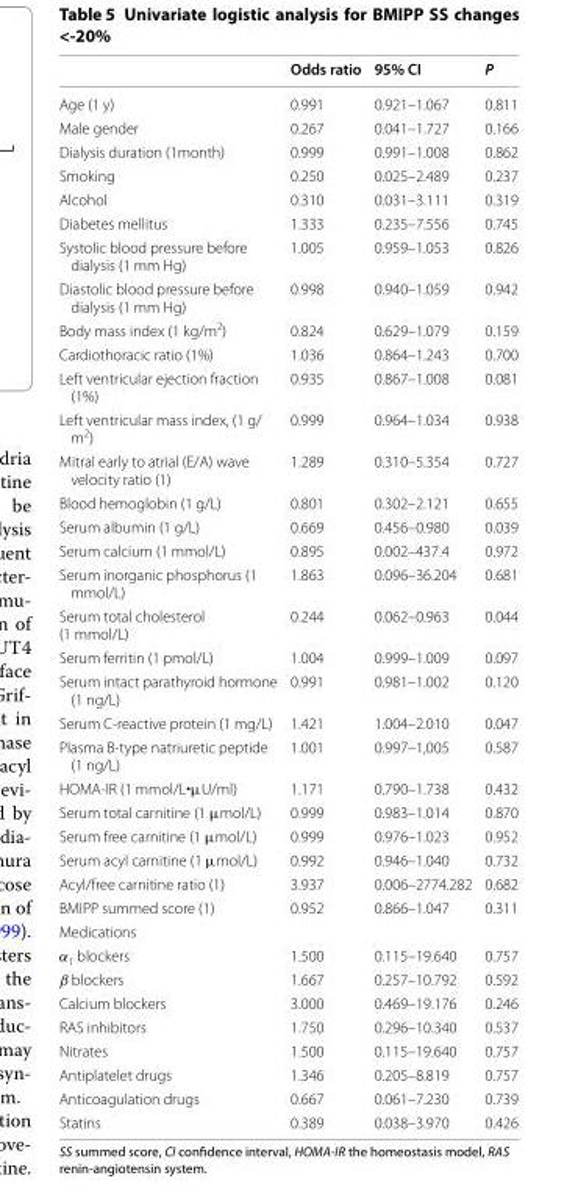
<table><thead><tr><td></td><td>Odds ratio</td><td>95% CI</td><td>P</td></tr></thead><tbody><tr><td>Age (1 y)</td><td>0.991</td><td>0.921–1.067</td><td>0.811</td></tr><tr><td>Male gender</td><td>0.267</td><td>0.041–1.727</td><td>0.166</td></tr><tr><td>Dialysis duration (1month)</td><td>0.999</td><td>0.991–1.008</td><td>0.862</td></tr><tr><td>Smoking</td><td>0.250</td><td>0.025–2.489</td><td>0.237</td></tr><tr><td>Alcohol</td><td>0.310</td><td>0.031–3.111</td><td>0.319</td></tr><tr><td>Diabetes mellitus</td><td>1.333</td><td>0.235–7.556</td><td>0.745</td></tr><tr><td>Systolic blood pressure before dialysis (1 mm Hg)</td><td>1.005</td><td>0.959–1.053</td><td>0.826</td></tr><tr><td>Diastolic blood pressure before dialysis (1 mm Hg)</td><td>0.998</td><td>0.940–1.059</td><td>0.942</td></tr><tr><td>Body mass index (1 kg/m<sup>2</sup>)</td><td>0.824</td><td>0.629–1.079</td><td>0.159</td></tr><tr><td>Cardiothoracic ratio (1%)</td><td>1.036</td><td>0.864–1.243</td><td>0.700</td></tr><tr><td>Left ventricular ejection fraction (1%)</td><td>0.935</td><td>0.867–1.008</td><td>0.081</td></tr><tr><td>Left ventricular mass index, (1 g/ m<sup>2</sup>)</td><td>0.999</td><td>0.964–1.034</td><td>0.938</td></tr><tr><td>Mitral early to atrial (E/A) wave velocity ratio (1)</td><td>1.289</td><td>0.310–5.354</td><td>0.727</td></tr><tr><td>Blood hemoglobin (1 g/L)</td><td>0.801</td><td>0.302–2.121</td><td>0.655</td></tr><tr><td>Serum albumin (1 g/L)</td><td>0.669</td><td>0.456–0.980</td><td>0.039</td></tr><tr><td>Serum calcium (1 mmol/L)</td><td>0.895</td><td>0.002–437.4</td><td>0.972</td></tr><tr><td>Serum inorganic phosphorus (1 mmol/L)</td><td>1.863</td><td>0.096–36.204</td><td>0.681</td></tr><tr><td>Serum total cholesterol (1 mmol/L)</td><td>0.244</td><td>0.062–0.963</td><td>0.044</td></tr><tr><td>Serum ferritin (1 pmol/L)</td><td>1.004</td><td>0.999–1.009</td><td>0.097</td></tr><tr><td>Serum intact parathyroid hormone (1 ng/L)</td><td>0.991</td><td>0.981–1.002</td><td>0.120</td></tr><tr><td>Serum C-reactive protein (1 mg/L)</td><td>1.421</td><td>1.004–2.010</td><td>0.047</td></tr><tr><td>Plasma B-type natriuretic peptide (1 ng/L)</td><td>1.001</td><td>0.997–1,005</td><td>0.587</td></tr><tr><td>HOMA-IR (1 mmol/L・μU/ml)</td><td>1.171</td><td>0.790–1.738</td><td>0.432</td></tr><tr><td>Serum total carnitine (1 μmol/L)</td><td>0.999</td><td>0.983–1.014</td><td>0.870</td></tr><tr><td>Serum free carnitine (1 μmol/L)</td><td>0.999</td><td>0.976–1.023</td><td>0.952</td></tr><tr><td>Serum acyl carnitine (1 μmol/L)</td><td>0.992</td><td>0.946–1.040</td><td>0.732</td></tr><tr><td>Acyl/free carnitine ratio (1)</td><td>3.937</td><td>0.006–2774.282</td><td>0.682</td></tr><tr><td>BMIPP summed score (1)</td><td>0.952</td><td>0.866–1.047</td><td>0.311</td></tr><tr><td colspan="4">Medications</td></tr><tr><td>α<sub>1</sub> blockers</td><td>1.500</td><td>0.115–19.640</td><td>0.757</td></tr><tr><td>β blockers</td><td>1.667</td><td>0.257–10.792</td><td>0.592</td></tr><tr><td>Calcium blockers</td><td>3.000</td><td>0.469–19.176</td><td>0.246</td></tr><tr><td>RAS inhibitors</td><td>1.750</td><td>0.296–10.340</td><td>0.537</td></tr><tr><td>Nitrates</td><td>1.500</td><td>0.115–19.640</td><td>0.757</td></tr><tr><td>Antiplatelet drugs</td><td>1.346</td><td>0.205–8.819</td><td>0.757</td></tr><tr><td>Anticoagulation drugs</td><td>0.667</td><td>0.061–7.230</td><td>0.739</td></tr><tr><td>Statins</td><td>0.389</td><td>0.038–3.970</td><td>0.426</td></tr></tbody></table>